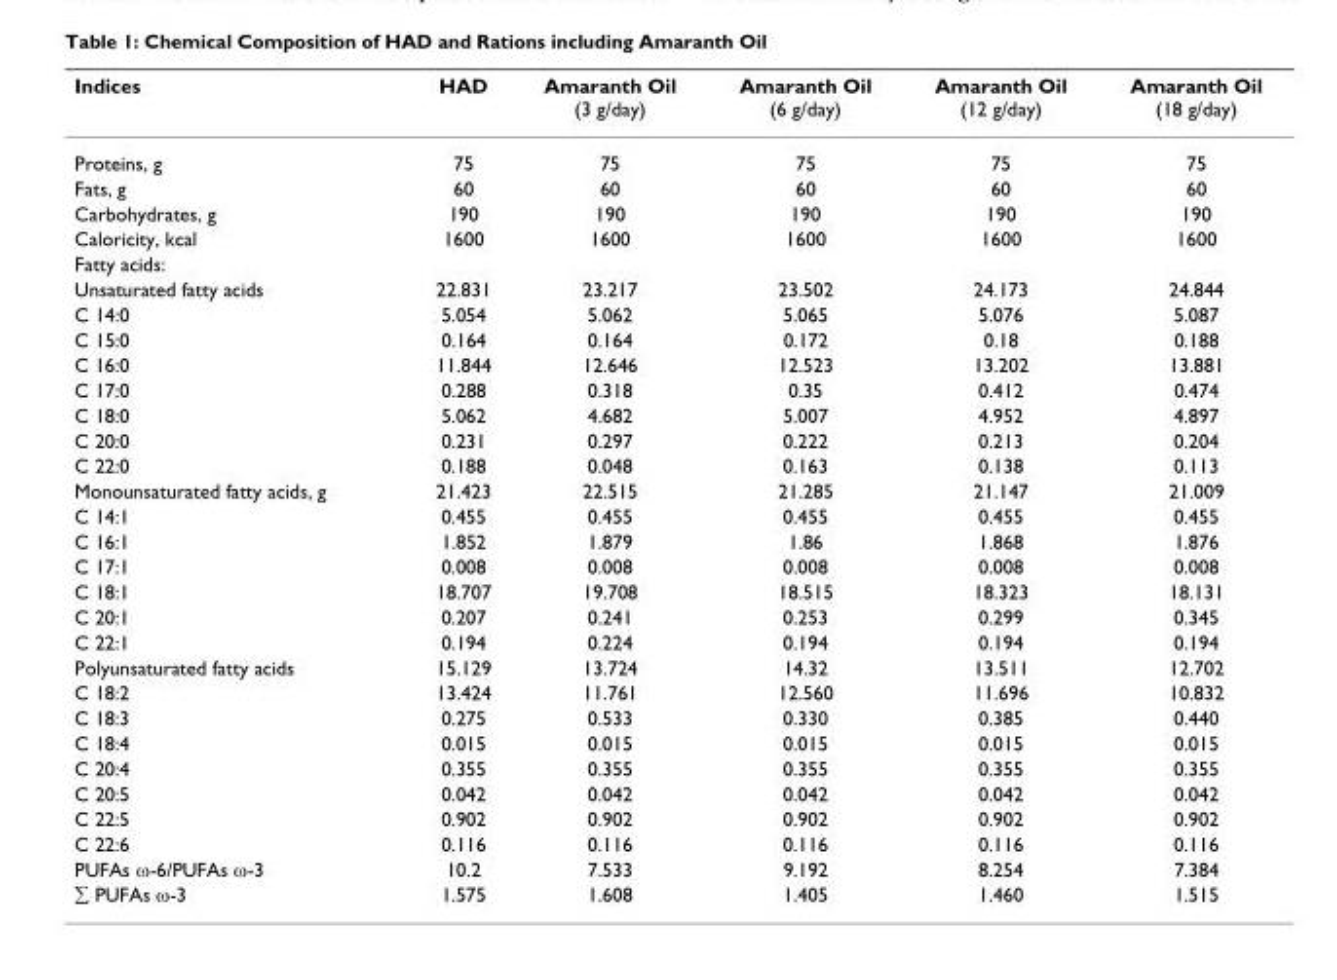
<table><thead><tr><td>Indices</td><td>HAD</td><td>Amaranth Oil (3 g/day)</td><td>Amaranth Oil (6 g/day)</td><td>Amaranth Oil (12 g/day)</td><td>Amaranth Oil (18 g/day)</td></tr></thead><tbody><tr><td>Proteins, g</td><td>75</td><td>75</td><td>75</td><td>75</td><td>75</td></tr><tr><td>Fats, g</td><td>60</td><td>60</td><td>60</td><td>60</td><td>60</td></tr><tr><td>Carbohydrates, g</td><td>190</td><td>190</td><td>190</td><td>190</td><td>190</td></tr><tr><td>Caloricity, kcal</td><td>1600</td><td>1600</td><td>1600</td><td>1600</td><td>1600</td></tr><tr><td colspan="6">Fatty acids:</td></tr><tr><td>Unsaturated fatty acids</td><td>22.831</td><td>23.217</td><td>23.502</td><td>24.173</td><td>24.844</td></tr><tr><td>C 14:0</td><td>5.054</td><td>5.062</td><td>5.065</td><td>5.076</td><td>5.087</td></tr><tr><td>C 15:0</td><td>0.164</td><td>0.164</td><td>0.172</td><td>0.18</td><td>0.188</td></tr><tr><td>C 16:0</td><td>11.844</td><td>12.646</td><td>12.523</td><td>13.202</td><td>13.881</td></tr><tr><td>C 17:0</td><td>0.288</td><td>0.318</td><td>0.35</td><td>0.412</td><td>0.474</td></tr><tr><td>C 18:0</td><td>5.062</td><td>4.682</td><td>5.007</td><td>4.952</td><td>4.897</td></tr><tr><td>C 20:0</td><td>0.231</td><td>0.297</td><td>0.222</td><td>0.213</td><td>0.204</td></tr><tr><td>C 22:0</td><td>0.188</td><td>0.048</td><td>0.163</td><td>0.138</td><td>0.113</td></tr><tr><td>Monounsaturated fatty acids, g</td><td>21.423</td><td>22.515</td><td>21.285</td><td>21.147</td><td>21.009</td></tr><tr><td>C 14:1</td><td>0.455</td><td>0.455</td><td>0.455</td><td>0.455</td><td>0.455</td></tr><tr><td>C 16:1</td><td>1.852</td><td>1.879</td><td>1.86</td><td>1.868</td><td>1.876</td></tr><tr><td>C 17:1</td><td>0.008</td><td>0.008</td><td>0.008</td><td>0.008</td><td>0.008</td></tr><tr><td>C 18:1</td><td>18.707</td><td>19.708</td><td>18.515</td><td>18.323</td><td>18.131</td></tr><tr><td>C 20:1</td><td>0.207</td><td>0.241</td><td>0.253</td><td>0.299</td><td>0.345</td></tr><tr><td>C 22:1</td><td>0.194</td><td>0.224</td><td>0.194</td><td>0.194</td><td>0.194</td></tr><tr><td>Polyunsaturated fatty acids</td><td>15.129</td><td>13.724</td><td>14.32</td><td>13.511</td><td>12.702</td></tr><tr><td>C 18:2</td><td>13.424</td><td>11.761</td><td>12.560</td><td>11.696</td><td>10.832</td></tr><tr><td>C 18:3</td><td>0.275</td><td>0.533</td><td>0.330</td><td>0.385</td><td>0.440</td></tr><tr><td>C 18:4</td><td>0.015</td><td>0.015</td><td>0.015</td><td>0.015</td><td>0.015</td></tr><tr><td>C 20:4</td><td>0.355</td><td>0.355</td><td>0.355</td><td>0.355</td><td>0.355</td></tr><tr><td>C 20:5</td><td>0.042</td><td>0.042</td><td>0.042</td><td>0.042</td><td>0.042</td></tr><tr><td>C 22:5</td><td>0.902</td><td>0.902</td><td>0.902</td><td>0.902</td><td>0.902</td></tr><tr><td>C 22:6</td><td>0.116</td><td>0.116</td><td>0.116</td><td>0.116</td><td>0.116</td></tr><tr><td>PUFAs ω-6/PUFAs ω-3</td><td>10.2</td><td>7.533</td><td>9.192</td><td>8.254</td><td>7.384</td></tr><tr><td>∑ PUFAs ω-3</td><td>1.575</td><td>1.608</td><td>1.405</td><td>1.460</td><td>1.515</td></tr></tbody></table>